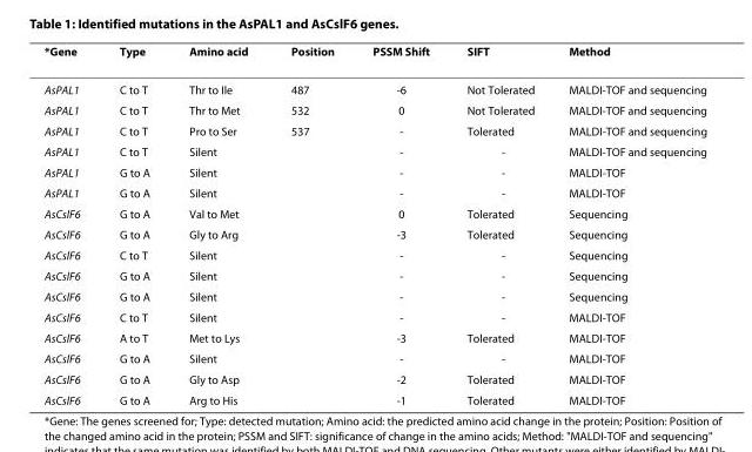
<table><thead><tr><td>*Gene</td><td>Type</td><td>Amino acid</td><td>Position</td><td>PSSM Shift</td><td>SIFT</td><td>Method</td></tr></thead><tbody><tr><td>AsPAL1</td><td>C to T</td><td>Thr to Ile</td><td>487</td><td>-6</td><td>Not Tolerated</td><td>MALDI-TOF and sequencing</td></tr><tr><td>AsPAL1</td><td>C to T</td><td>Thr to Met</td><td>532</td><td>0</td><td>Not Tolerated</td><td>MALDI-TOF and sequencing</td></tr><tr><td>AsPAL1</td><td>C to T</td><td>Pro to Ser</td><td>537</td><td>-</td><td>Tolerated</td><td>MALDI-TOF and sequencing</td></tr><tr><td>AsPAL1</td><td>C to T</td><td>Silent</td><td></td><td>-</td><td>-</td><td>MALDI-TOF and sequencing</td></tr><tr><td>AsPAL1</td><td>G to A</td><td>Silent</td><td></td><td>-</td><td>-</td><td>MALDI-TOF</td></tr><tr><td>AsPAL1</td><td>G to A</td><td>Silent</td><td></td><td>-</td><td>-</td><td>MALDI-TOF</td></tr><tr><td>AsCslF6</td><td>G to A</td><td>Val to Met</td><td></td><td>0</td><td>Tolerated</td><td>Sequencing</td></tr><tr><td>AsCslF6</td><td>G to A</td><td>Gly to Arg</td><td></td><td>-3</td><td>Tolerated</td><td>Sequencing</td></tr><tr><td>AsCslF6</td><td>C to T</td><td>Silent</td><td></td><td>-</td><td>-</td><td>Sequencing</td></tr><tr><td>AsCslF6</td><td>G to A</td><td>Silent</td><td></td><td>-</td><td>-</td><td>Sequencing</td></tr><tr><td>AsCslF6</td><td>G to A</td><td>Silent</td><td></td><td>-</td><td>-</td><td>Sequencing</td></tr><tr><td>AsCslF6</td><td>C to T</td><td>Silent</td><td></td><td>-</td><td>-</td><td>MALDI-TOF</td></tr><tr><td>AsCslF6</td><td>A to T</td><td>Met to Lys</td><td></td><td>-3</td><td>Tolerated</td><td>MALDI-TOF</td></tr><tr><td>AsCslF6</td><td>G to A</td><td>Silent</td><td></td><td>-</td><td>-</td><td>MALDI-TOF</td></tr><tr><td>AsCslF6</td><td>G to A</td><td>Gly to Asp</td><td></td><td>-2</td><td>Tolerated</td><td>MALDI-TOF</td></tr><tr><td>AsCslF6</td><td>G to A</td><td>Arg to His</td><td></td><td>-1</td><td>Tolerated</td><td>MALDI-TOF</td></tr></tbody></table>